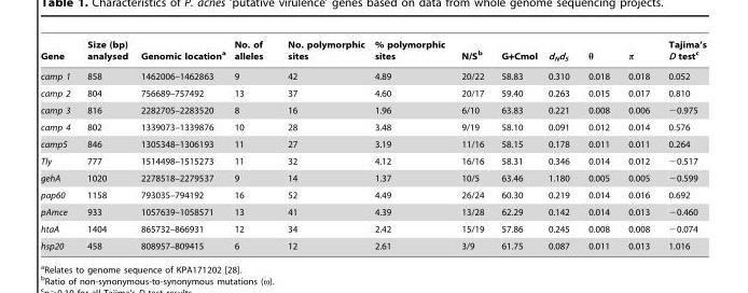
<table><thead><tr><td>Gene</td><td>Size (bp) analysed</td><td>Genomic location<sup>a</sup></td><td>No. of alleles</td><td>No. polymorphic sites</td><td>% polymorphic sites</td><td>N/S<sup>b</sup></td><td>G+Cmol</td><td>d<sub>N</sub>d<sub>S</sub></td><td>θ</td><td>π</td><td>Tajima’s D test<sup>c</sup></td></tr></thead><tbody><tr><td>camp 1</td><td>858</td><td>1462006–1462863</td><td>9</td><td>42</td><td>4.89</td><td>20/22</td><td>58.83</td><td>0.310</td><td>0.018</td><td>0.018</td><td>0.052</td></tr><tr><td>camp 2</td><td>804</td><td>756689–757492</td><td>13</td><td>37</td><td>4.60</td><td>20/17</td><td>59.40</td><td>0.263</td><td>0.015</td><td>0.017</td><td>0.810</td></tr><tr><td>camp 3</td><td>816</td><td>2282705–2283520</td><td>8</td><td>16</td><td>1.96</td><td>6/10</td><td>63.83</td><td>0.221</td><td>0.008</td><td>0.006</td><td>−0.975</td></tr><tr><td>camp 4</td><td>802</td><td>1339073–1339876</td><td>10</td><td>28</td><td>3.48</td><td>9/19</td><td>58.10</td><td>0.091</td><td>0.012</td><td>0.014</td><td>0.576</td></tr><tr><td>camp5</td><td>846</td><td>1305348–1306193</td><td>11</td><td>27</td><td>3.19</td><td>11/16</td><td>58.15</td><td>0.178</td><td>0.011</td><td>0.011</td><td>0.264</td></tr><tr><td>Tly</td><td>777</td><td>1514498–1515273</td><td>11</td><td>32</td><td>4.12</td><td>16/16</td><td>58.31</td><td>0.346</td><td>0.014</td><td>0.012</td><td>−0.517</td></tr><tr><td>gehA</td><td>1020</td><td>2278518–2279537</td><td>9</td><td>14</td><td>1.37</td><td>10/5</td><td>63.46</td><td>1.180</td><td>0.005</td><td>0.005</td><td>−0.599</td></tr><tr><td>pap60</td><td>1158</td><td>793035–794192</td><td>16</td><td>52</td><td>4.49</td><td>26/24</td><td>60.30</td><td>0.219</td><td>0.014</td><td>0.016</td><td>0.692</td></tr><tr><td>pAmce</td><td>933</td><td>1057639–1058571</td><td>13</td><td>41</td><td>4.39</td><td>13/28</td><td>62.29</td><td>0.142</td><td>0.014</td><td>0.013</td><td>−0.460</td></tr><tr><td>htaA</td><td>1404</td><td>865732–866931</td><td>12</td><td>34</td><td>2.42</td><td>15/19</td><td>57.86</td><td>0.245</td><td>0.008</td><td>0.008</td><td>−0.074</td></tr><tr><td>hsp20</td><td>458</td><td>808957–809415</td><td>6</td><td>12</td><td>2.61</td><td>3/9</td><td>61.75</td><td>0.087</td><td>0.011</td><td>0.013</td><td>1.016</td></tr></tbody></table>